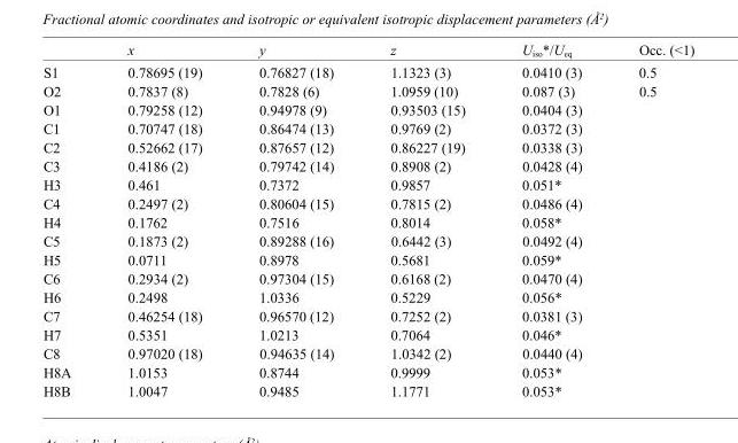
<table><thead><tr><td></td><td>x</td><td>y</td><td>z</td><td>U<sub>iso</sub>*/U<sub>eq</sub></td><td>Occ. (&lt;1)</td></tr></thead><tbody><tr><td>S1</td><td>0.78695 (19)</td><td>0.76827 (18)</td><td>1.1323 (3)</td><td>0.0410 (3)</td><td>0.5</td></tr><tr><td>O2</td><td>0.7837 (8)</td><td>0.7828 (6)</td><td>1.0959 (10)</td><td>0.087 (3)</td><td>0.5</td></tr><tr><td>O1</td><td>0.79258 (12)</td><td>0.94978 (9)</td><td>0.93503 (15)</td><td>0.0404 (3)</td><td></td></tr><tr><td>C1</td><td>0.70747 (18)</td><td>0.86474 (13)</td><td>0.9769 (2)</td><td>0.0372 (3)</td><td></td></tr><tr><td>C2</td><td>0.52662 (17)</td><td>0.87657 (12)</td><td>0.86227 (19)</td><td>0.0338 (3)</td><td></td></tr><tr><td>C3</td><td>0.4186 (2)</td><td>0.79742 (14)</td><td>0.8908 (2)</td><td>0.0428 (4)</td><td></td></tr><tr><td>H3</td><td>0.461</td><td>0.7372</td><td>0.9857</td><td>0.051*</td><td></td></tr><tr><td>C4</td><td>0.2497 (2)</td><td>0.80604 (15)</td><td>0.7815 (2)</td><td>0.0486 (4)</td><td></td></tr><tr><td>H4</td><td>0.1762</td><td>0.7516</td><td>0.8014</td><td>0.058*</td><td></td></tr><tr><td>C5</td><td>0.1873 (2)</td><td>0.89288 (16)</td><td>0.6442 (3)</td><td>0.0492 (4)</td><td></td></tr><tr><td>H5</td><td>0.0711</td><td>0.8978</td><td>0.5681</td><td>0.059*</td><td></td></tr><tr><td>C6</td><td>0.2934 (2)</td><td>0.97304 (15)</td><td>0.6168 (2)</td><td>0.0470 (4)</td><td></td></tr><tr><td>H6</td><td>0.2498</td><td>1.0336</td><td>0.5229</td><td>0.056*</td><td></td></tr><tr><td>C7</td><td>0.46254 (18)</td><td>0.96570 (12)</td><td>0.7252 (2)</td><td>0.0381 (3)</td><td></td></tr><tr><td>H7</td><td>0.5351</td><td>1.0213</td><td>0.7064</td><td>0.046*</td><td></td></tr><tr><td>C8</td><td>0.97020 (18)</td><td>0.94635 (14)</td><td>1.0342 (2)</td><td>0.0440 (4)</td><td></td></tr><tr><td>H8A</td><td>1.0153</td><td>0.8744</td><td>0.9999</td><td>0.053*</td><td></td></tr><tr><td>H8B</td><td>1.0047</td><td>0.9485</td><td>1.1771</td><td>0.053*</td><td></td></tr></tbody></table>